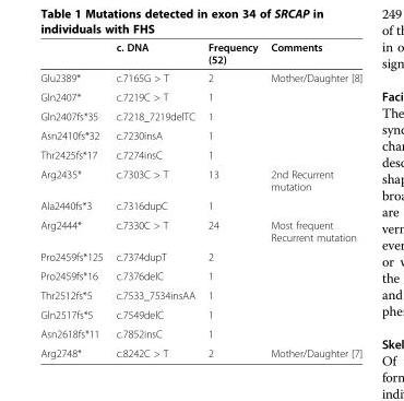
<table><thead><tr><td></td><td>c. DNA</td><td>Frequency (52)</td><td>Comments</td></tr></thead><tbody><tr><td>Glu2389*</td><td>c.7165G &gt; T</td><td>2</td><td>Mother/Daughter [8]</td></tr><tr><td>Gln2407*</td><td>c.7219C &gt; T</td><td>1</td><td></td></tr><tr><td>Gln2407fs*35</td><td>c.7218_7219delTC</td><td>1</td><td></td></tr><tr><td>Asn2410fs*32</td><td>c.7230insA</td><td>1</td><td></td></tr><tr><td>Thr2425fs*17</td><td>c.7274insC</td><td>1</td><td></td></tr><tr><td>Arg2435*</td><td>c.7303C &gt; T</td><td>13</td><td>2nd Recurrent mutation</td></tr><tr><td>Ala2440fs*3</td><td>c.7316dupC</td><td>1</td><td></td></tr><tr><td>Arg2444*</td><td>c.7330C &gt; T</td><td>24</td><td>Most frequent Recurrent mutation</td></tr><tr><td>Pro2459fs*125</td><td>c.7374dupT</td><td>2</td><td></td></tr><tr><td>Pro2459fs*16</td><td>c.7376delC</td><td>1</td><td></td></tr><tr><td>Thr2512fs*5</td><td>c.7533_7534insAA</td><td>1</td><td></td></tr><tr><td>Gln2517fs*5</td><td>c.7549delC</td><td>1</td><td></td></tr><tr><td>Asn2618fs*11</td><td>c.7852insC</td><td>1</td><td></td></tr><tr><td>Arg2748*</td><td>c.8242C &gt; T</td><td>2</td><td>Mother/Daughter [7]</td></tr></tbody></table>